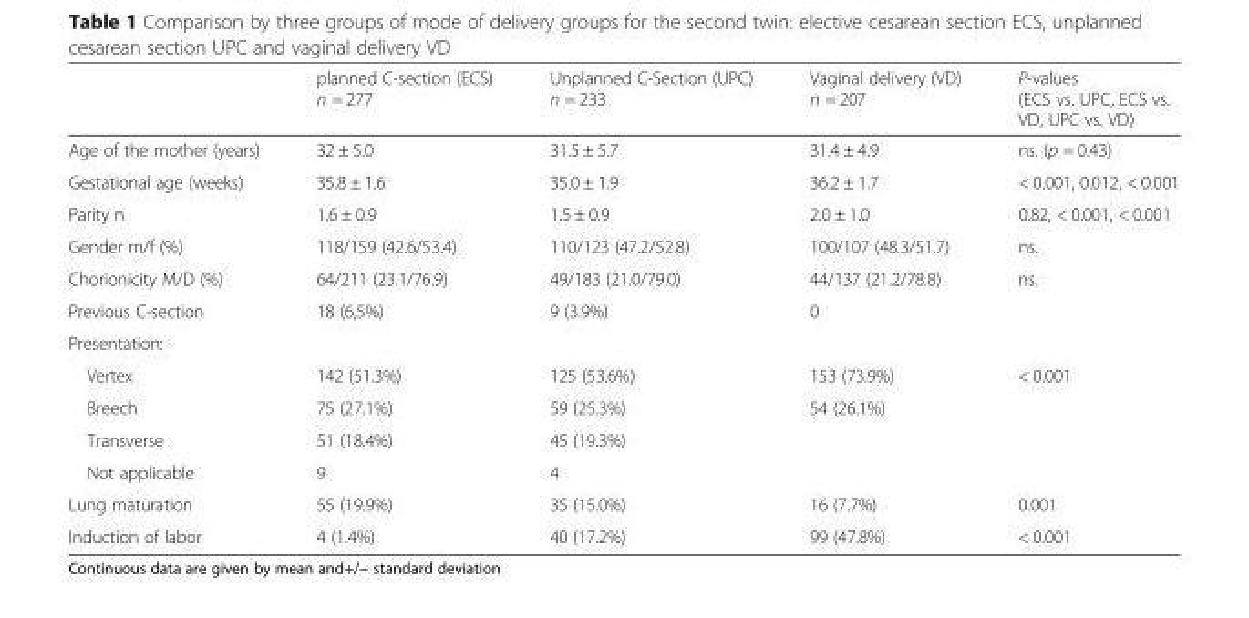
<table><thead><tr><td></td><td>planned C-section (ECS) n = 277</td><td>Unplanned C-Section (UPC) n = 233</td><td>Vaginal delivery (VD) n = 207</td><td>P-values (ECS vs. UPC, ECS vs. VD, UPC vs. VD)</td></tr></thead><tbody><tr><td>Age of the mother (years)</td><td>32 ± 5.0</td><td>31.5 ± 5.7</td><td>31.4 ± 4.9</td><td>ns. (p = 0.43)</td></tr><tr><td>Gestational age (weeks)</td><td>35.8 ± 1.6</td><td>35.0 ± 1.9</td><td>36.2 ± 1.7</td><td>&lt; 0.001, 0.012, &lt; 0.001</td></tr><tr><td>Parity n</td><td>1.6 ± 0.9</td><td>1.5 ± 0.9</td><td>2.0 ± 1.0</td><td>0.82, &lt; 0.001, &lt; 0.001</td></tr><tr><td>Gender m/f (%)</td><td>118/159 (42.6/53.4)</td><td>110/123 (47.2/52.8)</td><td>100/107 (48.3/51.7)</td><td>ns.</td></tr><tr><td>Chorionicity M/D (%)</td><td>64/211 (23.1/76.9)</td><td>49/183 (21.0/79.0)</td><td>44/137 (21.2/78.8)</td><td>ns.</td></tr><tr><td>Previous C-section</td><td>18 (6,5%)</td><td>9 (3.9%)</td><td>0</td><td></td></tr><tr><td colspan="5">Presentation:</td></tr><tr><td>Vertex</td><td>142 (51.3%)</td><td>125 (53.6%)</td><td>153 (73.9%)</td><td rowspan="4">&lt; 0.001</td></tr><tr><td>Breech</td><td>75 (27.1%)</td><td>59 (25.3%)</td><td>54 (26.1%)</td></tr><tr><td>Transverse</td><td>51 (18.4%)</td><td>45 (19.3%)</td><td></td></tr><tr><td>Not applicable</td><td>9</td><td>4</td><td></td></tr><tr><td>Lung maturation</td><td>55 (19.9%)</td><td>35 (15.0%)</td><td>16 (7.7%)</td><td>0.001</td></tr><tr><td>Induction of labor</td><td>4 (1.4%)</td><td>40 (17.2%)</td><td>99 (47.8%)</td><td>&lt; 0.001</td></tr></tbody></table>